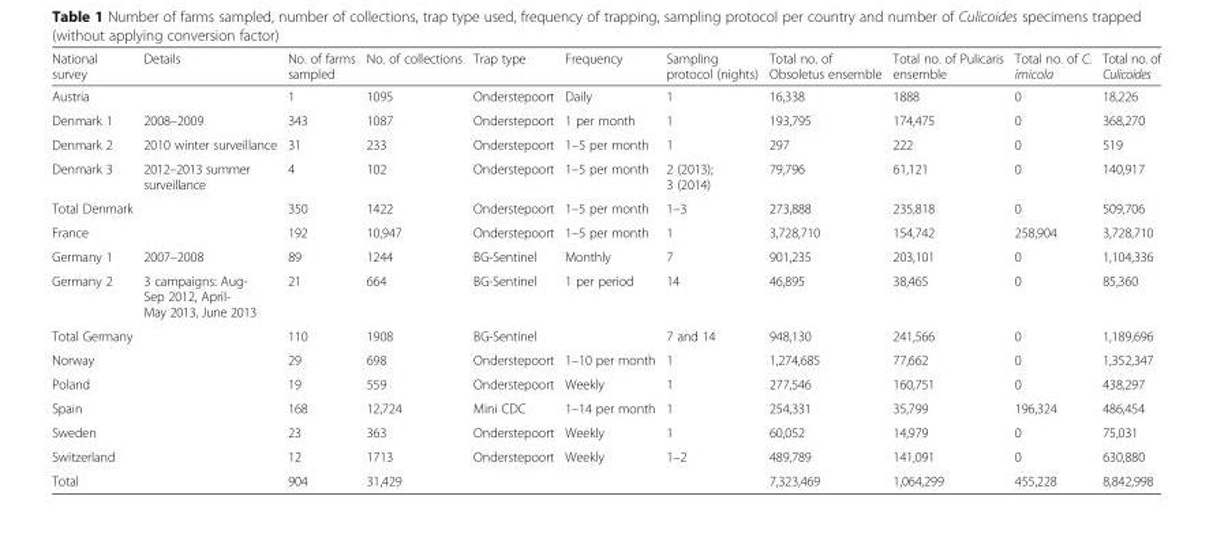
<table><thead><tr><td>National survey</td><td>Details</td><td>No. of farms sampled</td><td>No. of collections</td><td>Trap type</td><td>Frequency</td><td>Sampling protocol (nights)</td><td>Total no. of Obsoletus ensemble</td><td>Total no. of Pulicaris ensemble</td><td>Total no. of C. imicola</td><td>Total no. of Culicoides</td></tr></thead><tbody><tr><td>Austria</td><td></td><td>1</td><td>1095</td><td>Onderstepoort</td><td>Daily</td><td>1</td><td>16,338</td><td>1888</td><td>0</td><td>18,226</td></tr><tr><td>Denmark 1</td><td>2008–2009</td><td>343</td><td>1087</td><td>Onderstepoort</td><td>1 per month</td><td>1</td><td>193,795</td><td>174,475</td><td>0</td><td>368,270</td></tr><tr><td>Denmark 2</td><td>2010 winter surveillance</td><td>31</td><td>233</td><td>Onderstepoort</td><td>1–5 per month</td><td>1</td><td>297</td><td>222</td><td>0</td><td>519</td></tr><tr><td>Denmark 3</td><td>2012–2013 summer surveillance</td><td>4</td><td>102</td><td>Onderstepoort</td><td>1–5 per month</td><td>2 (2013); 3 (2014)</td><td>79,796</td><td>61,121</td><td>0</td><td>140,917</td></tr><tr><td>Total Denmark</td><td></td><td>350</td><td>1422</td><td>Onderstepoort</td><td>1–5 per month</td><td>1–3</td><td>273,888</td><td>235,818</td><td>0</td><td>509,706</td></tr><tr><td>France</td><td></td><td>192</td><td>10,947</td><td>Onderstepoort</td><td>1–5 per month</td><td>1</td><td>3,728,710</td><td>154,742</td><td>258,904</td><td>3,728,710</td></tr><tr><td>Germany 1</td><td>2007–2008</td><td>89</td><td>1244</td><td>BG-Sentinel</td><td>Monthly</td><td>7</td><td>901,235</td><td>203,101</td><td>0</td><td>1,104,336</td></tr><tr><td>Germany 2</td><td>3 campaigns: Aug- Sep 2012, April- May 2013, June 2013</td><td>21</td><td>664</td><td>BG-Sentinel</td><td>1 per period</td><td>14</td><td>46,895</td><td>38,465</td><td>0</td><td>85,360</td></tr><tr><td>Total Germany</td><td></td><td>110</td><td>1908</td><td>BG-Sentinel</td><td></td><td>7 and 14</td><td>948,130</td><td>241,566</td><td>0</td><td>1,189,696</td></tr><tr><td>Norway</td><td></td><td>29</td><td>698</td><td>Onderstepoort</td><td>1–10 per month</td><td>1</td><td>1,274,685</td><td>77,662</td><td>0</td><td>1,352,347</td></tr><tr><td>Poland</td><td></td><td>19</td><td>559</td><td>Onderstepoort</td><td>Weekly</td><td>1</td><td>277,546</td><td>160,751</td><td>0</td><td>438,297</td></tr><tr><td>Spain</td><td></td><td>168</td><td>12,724</td><td>Mini CDC</td><td>1–14 per month</td><td>1</td><td>254,331</td><td>35,799</td><td>196,324</td><td>486,454</td></tr><tr><td>Sweden</td><td></td><td>23</td><td>363</td><td>Onderstepoort</td><td>Weekly</td><td>1</td><td>60,052</td><td>14,979</td><td>0</td><td>75,031</td></tr><tr><td>Switzerland</td><td></td><td>12</td><td>1713</td><td>Onderstepoort</td><td>Weekly</td><td>1–2</td><td>489,789</td><td>141,091</td><td>0</td><td>630,880</td></tr><tr><td>Total</td><td></td><td>904</td><td>31,429</td><td></td><td></td><td></td><td>7,323,469</td><td>1,064,299</td><td>455,228</td><td>8,842,998</td></tr></tbody></table>